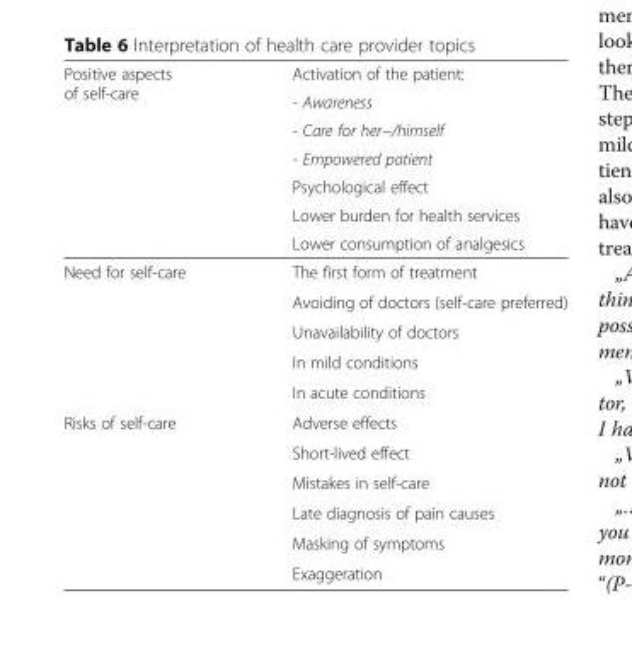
<table><thead><tr><td rowspan="7">Positive aspects of self-care</td><td rowspan="7">Activation of the patient: - Awareness - Care for her−/himself - Empowered patient Psychological effect Lower burden for health services Lower consumption of analgesics</td></tr><tr></tr><tr></tr><tr></tr><tr></tr><tr></tr><tr></tr></thead><tbody><tr><td rowspan="5">Need for self-care</td><td>The first form of treatment</td></tr><tr><td>Avoiding of doctors (self-care preferred)</td></tr><tr><td>Unavailability of doctors</td></tr><tr><td>In mild conditions</td></tr><tr><td>In acute conditions</td></tr><tr><td rowspan="6">Risks of self-care</td><td>Adverse effects</td></tr><tr><td>Short-lived effect</td></tr><tr><td>Mistakes in self-care</td></tr><tr><td>Late diagnosis of pain causes</td></tr><tr><td>Masking of symptoms</td></tr><tr><td>Exaggeration</td></tr></tbody></table>